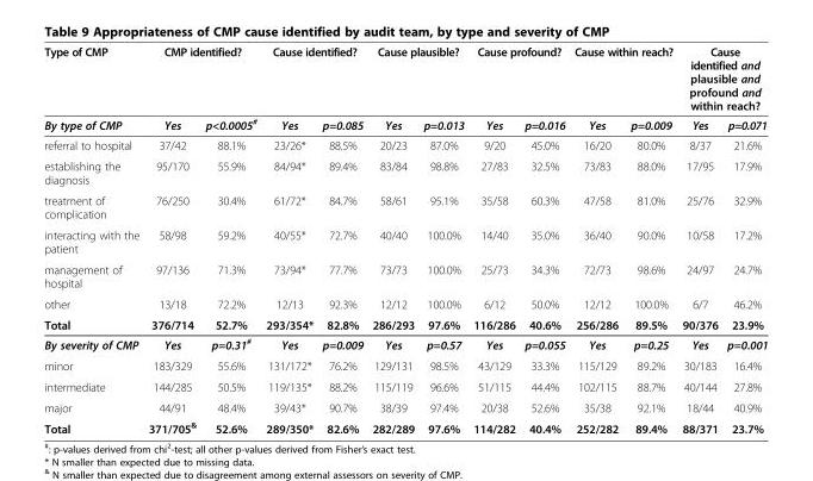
<table><thead><tr><td rowspan="2">Type of CMP By type of CMP</td><td colspan="2">CMP identified?</td><td colspan="2">Cause identified?</td><td colspan="2">Cause plausible?</td><td colspan="2">Cause profound?</td><td colspan="2">Cause within reach?</td><td colspan="2">Cause identified and plausible and profound and within reach?</td></tr><tr><td>Yes</td><td>p&lt;0.0005<sup>#</sup></td><td>Yes</td><td>p=0.085</td><td>Yes</td><td>p=0.013</td><td>Yes</td><td>p=0.016</td><td>Yes</td><td>p=0.009</td><td>Yes</td><td>p=0.071</td></tr></thead><tbody><tr><td>referral to hospital</td><td>37/42</td><td>88.1%</td><td>23/26*</td><td>88.5%</td><td>20/23</td><td>87.0%</td><td>9/20</td><td>45.0%</td><td>16/20</td><td>80.0%</td><td>8/37</td><td>21.6%</td></tr><tr><td>establishing the diagnosis</td><td>95/170</td><td>55.9%</td><td>84/94*</td><td>89.4%</td><td>83/84</td><td>98.8%</td><td>27/83</td><td>32.5%</td><td>73/83</td><td>88.0%</td><td>17/95</td><td>17.9%</td></tr><tr><td>treatment of complication</td><td>76/250</td><td>30.4%</td><td>61/72*</td><td>84.7%</td><td>58/61</td><td>95.1%</td><td>35/58</td><td>60.3%</td><td>47/58</td><td>81.0%</td><td>25/76</td><td>32.9%</td></tr><tr><td>interacting with the patient</td><td>58/98</td><td>59.2%</td><td>40/55*</td><td>72.7%</td><td>40/40</td><td>100.0%</td><td>14/40</td><td>35.0%</td><td>36/40</td><td>90.0%</td><td>10/58</td><td>17.2%</td></tr><tr><td>management of hospital</td><td>97/136</td><td>71.3%</td><td>73/94*</td><td>77.7%</td><td>73/73</td><td>100.0%</td><td>25/73</td><td>34.3%</td><td>72/73</td><td>98.6%</td><td>24/97</td><td>24.7%</td></tr><tr><td>other</td><td>13/18</td><td>72.2%</td><td>12/13</td><td>92.3%</td><td>12/12</td><td>100.0%</td><td>6/12</td><td>50.0%</td><td>12/12</td><td>100.0%</td><td>6/7</td><td>46.2%</td></tr><tr><td>Total</td><td>376/714</td><td>52.7%</td><td>293/354*</td><td>82.8%</td><td>286/293</td><td>97.6%</td><td>116/286</td><td>40.6%</td><td>256/286</td><td>89.5%</td><td>90/376</td><td>23.9%</td></tr><tr><td>By severity of CMP</td><td>Yes</td><td>p=0.31<sup>#</sup></td><td>Yes</td><td>p=0.009</td><td>Yes</td><td>p=0.57</td><td>Yes</td><td>p=0.055</td><td>Yes</td><td>p=0.25</td><td>Yes</td><td>p=0.001</td></tr><tr><td>minor</td><td>183/329</td><td>55.6%</td><td>131/172*</td><td>76.2%</td><td>129/131</td><td>98.5%</td><td>43/129</td><td>33.3%</td><td>115/129</td><td>89.2%</td><td>30/183</td><td>16.4%</td></tr><tr><td>intermediate</td><td>144/285</td><td>50.5%</td><td>119/135*</td><td>88.2%</td><td>115/119</td><td>96.6%</td><td>51/115</td><td>44.4%</td><td>102/115</td><td>88.7%</td><td>40/144</td><td>27.8%</td></tr><tr><td>major</td><td>44/91</td><td>48.4%</td><td>39/43*</td><td>90.7%</td><td>38/39</td><td>97.4%</td><td>20/38</td><td>52.6%</td><td>35/38</td><td>92.1%</td><td>18/44</td><td>40.9%</td></tr><tr><td>Total</td><td>371/705<sup>&amp;</sup></td><td>52.6%</td><td>289/350*</td><td>82.6%</td><td>282/289</td><td>97.6%</td><td>114/282</td><td>40.4%</td><td>252/282</td><td>89.4%</td><td>88/371</td><td>23.7%</td></tr></tbody></table>